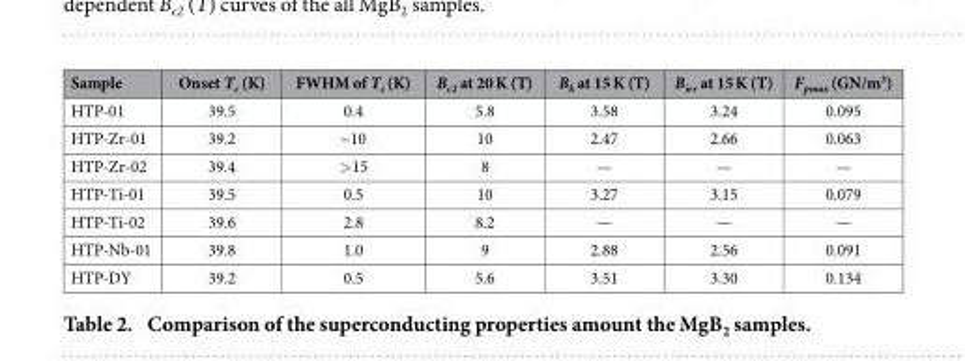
<table><thead><tr><td>Sample</td><td>Onset T<sub>c</sub> (K)</td><td>FWHM of T<sub>c</sub> (K)</td><td>B<sub>c2</sub> at 20 K (T)</td><td>B<sub>k</sub> at 15 K (T)</td><td>B<sub>irr</sub> at 15 K (T)</td><td>F<sub>pmax</sub> (GN/m<sup>3</sup>)</td></tr></thead><tbody><tr><td>HTP-01</td><td>39.5</td><td>0.4</td><td>5.8</td><td>3.58</td><td>3.24</td><td>0.095</td></tr><tr><td>HTP-Zr-01</td><td>39.2</td><td>~10</td><td>10</td><td>2.47</td><td>2.66</td><td>0.063</td></tr><tr><td>HTP-Zr-02</td><td>39.4</td><td>&gt; 15</td><td>8</td><td>—</td><td>—</td><td>—</td></tr><tr><td>HTP-Ti-01</td><td>39.5</td><td>0.5</td><td>10</td><td>3.27</td><td>3.15</td><td>0.079</td></tr><tr><td>HTP-Ti-02</td><td>39.6</td><td>2.8</td><td>8.2</td><td>—</td><td>—</td><td>—</td></tr><tr><td>HTP-Nb-01</td><td>39.8</td><td>1.0</td><td>9</td><td>2.88</td><td>2.56</td><td>0.091</td></tr><tr><td>HTP-DY</td><td>39.2</td><td>0.5</td><td>5.6</td><td>3.51</td><td>3.30</td><td>0.134</td></tr></tbody></table>